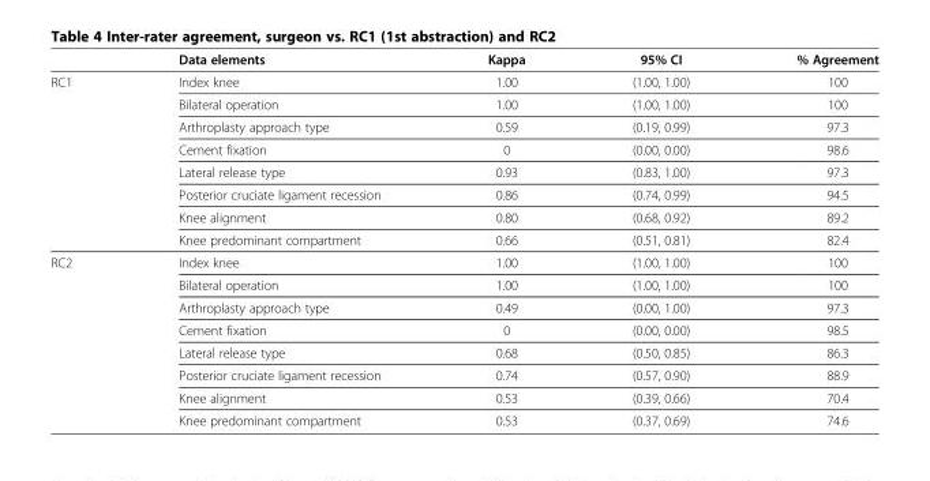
<table><thead><tr><td></td><td>Data elements</td><td>Kappa</td><td>95% CI</td><td>% Agreement</td></tr></thead><tbody><tr><td rowspan="8">RC1</td><td>Index knee</td><td>1.00</td><td>(1.00, 1.00)</td><td>100</td></tr><tr><td>Bilateral operation</td><td>1.00</td><td>(1.00, 1.00)</td><td>100</td></tr><tr><td>Arthroplasty approach type</td><td>0.59</td><td>(0.19, 0.99)</td><td>97.3</td></tr><tr><td>Cement fixation</td><td>0</td><td>(0.00, 0.00)</td><td>98.6</td></tr><tr><td>Lateral release type</td><td>0.93</td><td>(0.83, 1.00)</td><td>97.3</td></tr><tr><td>Posterior cruciate ligament recession</td><td>0.86</td><td>(0.74, 0.99)</td><td>94.5</td></tr><tr><td>Knee alignment</td><td>0.80</td><td>(0.68, 0.92)</td><td>89.2</td></tr><tr><td>Knee predominant compartment</td><td>0.66</td><td>(0.51, 0.81)</td><td>82.4</td></tr><tr><td rowspan="8">RC2</td><td>Index knee</td><td>1.00</td><td>(1.00, 1.00)</td><td>100</td></tr><tr><td>Bilateral operation</td><td>1.00</td><td>(1.00, 1.00)</td><td>100</td></tr><tr><td>Arthroplasty approach type</td><td>0.49</td><td>(0.00, 1.00)</td><td>97.3</td></tr><tr><td>Cement fixation</td><td>0</td><td>(0.00, 0.00)</td><td>98.5</td></tr><tr><td>Lateral release type</td><td>0.68</td><td>(0.50, 0.85)</td><td>86.3</td></tr><tr><td>Posterior cruciate ligament recession</td><td>0.74</td><td>(0.57, 0.90)</td><td>88.9</td></tr><tr><td>Knee alignment</td><td>0.53</td><td>(0.39, 0.66)</td><td>70.4</td></tr><tr><td>Knee predominant compartment</td><td>0.53</td><td>(0.37, 0.69)</td><td>74.6</td></tr></tbody></table>